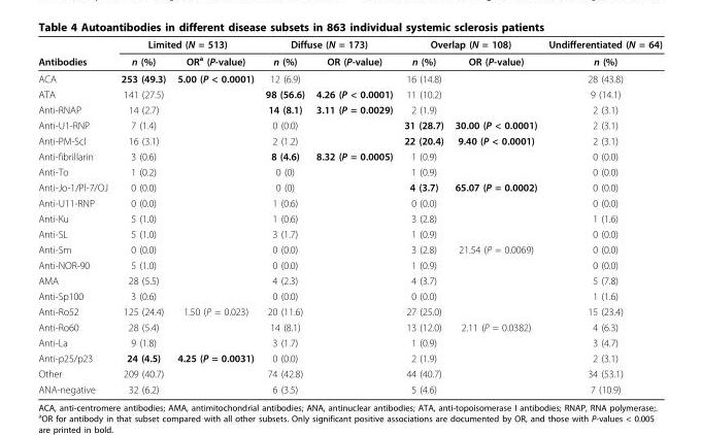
<table><thead><tr><td rowspan="2">Antibodies</td><td colspan="2">Limited (N = 513)</td><td colspan="2">Diffuse (N = 173)</td><td colspan="2">Overlap (N = 108)</td><td rowspan="2">Undifferentiated (N = 64) n (%)</td></tr><tr><td>n (%)</td><td>OR<sup>a</sup> (P-value)</td><td>n (%)</td><td>OR (P-value)</td><td>n (%)</td><td>OR (P-value)</td></tr></thead><tbody><tr><td>ACA</td><td>253 (49.3)</td><td>5.00 (P &lt; 0.0001)</td><td>12 (6.9)</td><td></td><td>16 (14.8)</td><td></td><td>28 (43.8)</td></tr><tr><td>ATA</td><td>141 (27.5)</td><td></td><td>98 (56.6)</td><td>4.26 (P &lt; 0.0001)</td><td>11 (10.2)</td><td></td><td>9 (14.1)</td></tr><tr><td>Anti-RNAP</td><td>14 (2.7)</td><td></td><td>14 (8.1)</td><td>3.11 (P = 0.0029)</td><td>2 (1.9)</td><td></td><td>2 (3.1)</td></tr><tr><td>Anti-U1-RNP</td><td>7 (1.4)</td><td></td><td>0 (0.0)</td><td></td><td>31 (28.7)</td><td>30.00 (P &lt; 0.0001)</td><td>2 (3.1)</td></tr><tr><td>Anti-PM-Scl</td><td>16 (3.1)</td><td></td><td>2 (1.2)</td><td></td><td>22 (20.4)</td><td>9.40 (P &lt; 0.0001)</td><td>2 (3.1)</td></tr><tr><td>Anti-fibrillarin</td><td>3 (0.6)</td><td></td><td>8 (4.6)</td><td>8.32 (P = 0.0005)</td><td>1 (0.9)</td><td></td><td>0 (0.0)</td></tr><tr><td>Anti-To</td><td>1 (0.2)</td><td></td><td>0 (0)</td><td></td><td>1 (0.9)</td><td></td><td>0 (0.0)</td></tr><tr><td>Anti-Jo-1/Pl-7/OJ</td><td>0 (0.0)</td><td></td><td>0 (0)</td><td></td><td>4 (3.7)</td><td>65.07 (P = 0.0002)</td><td>0 (0.0)</td></tr><tr><td>Anti-U11-RNP</td><td>0 (0.0)</td><td></td><td>1 (0.6)</td><td></td><td>0 (0.0)</td><td></td><td>0 (0.0)</td></tr><tr><td>Anti-Ku</td><td>5 (1.0)</td><td></td><td>1 (0.6)</td><td></td><td>3 (2.8)</td><td></td><td>1 (1.6)</td></tr><tr><td>Anti-SL</td><td>5 (1.0)</td><td></td><td>3 (1.7)</td><td></td><td>1 (0.9)</td><td></td><td>0 (0.0)</td></tr><tr><td>Anti-Sm</td><td>0 (0.0)</td><td></td><td>0 (0.0)</td><td></td><td>3 (2.8)</td><td>21.54 (P = 0.0069)</td><td>0 (0.0)</td></tr><tr><td>Anti-NOR-90</td><td>5 (1.0)</td><td></td><td>0 (0.0)</td><td></td><td>1 (0.9)</td><td></td><td>0 (0.0)</td></tr><tr><td>AMA</td><td>28 (5.5)</td><td></td><td>4 (2.3)</td><td></td><td>4 (3.7)</td><td></td><td>5 (7.8)</td></tr><tr><td>Anti-Sp100</td><td>3 (0.6)</td><td></td><td>0 (0.0)</td><td></td><td>0 (0.0)</td><td></td><td>1 (1.6)</td></tr><tr><td>Anti-Ro52</td><td>125 (24.4)</td><td>1.50 (P = 0.023)</td><td>20 (11.6)</td><td></td><td>27 (25.0)</td><td></td><td>15 (23.4)</td></tr><tr><td>Anti-Ro60</td><td>28 (5.4)</td><td></td><td>14 (8.1)</td><td></td><td>13 (12.0)</td><td>2.11 (P = 0.0382)</td><td>4 (6.3)</td></tr><tr><td>Anti-La</td><td>9 (1.8)</td><td></td><td>3 (1.7)</td><td></td><td>1 (0.9)</td><td></td><td>3 (4.7)</td></tr><tr><td>Anti-p25/p23</td><td>24 (4.5)</td><td>4.25 (P = 0.0031)</td><td>0 (0.0)</td><td></td><td>2 (1.9)</td><td></td><td>2 (3.1)</td></tr><tr><td>Other</td><td>209 (40.7)</td><td></td><td>74 (42.8)</td><td></td><td>44 (40.7)</td><td></td><td>34 (53.1)</td></tr><tr><td>ANA-negative</td><td>32 (6.2)</td><td></td><td>6 (3.5)</td><td></td><td>5 (4.6)</td><td></td><td>7 (10.9)</td></tr></tbody></table>